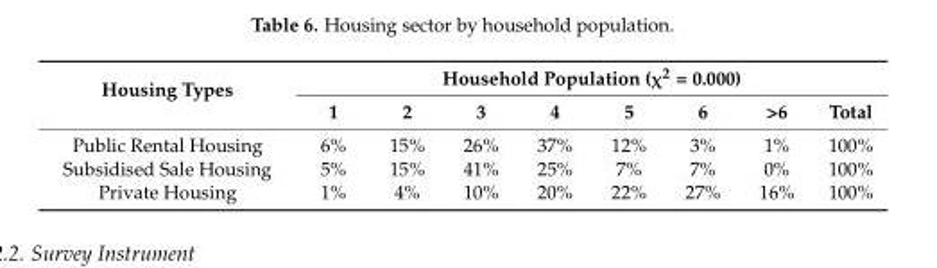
<table><thead><tr><td rowspan="2">Housing Types</td><td colspan="8">Household Population (χ<sup>2</sup> = 0.000)</td></tr><tr><td>1</td><td>2</td><td>3</td><td>4</td><td>5</td><td>6</td><td>&gt;6</td><td>Total</td></tr></thead><tbody><tr><td>Public Rental Housing</td><td>6%</td><td>15%</td><td>26%</td><td>37%</td><td>12%</td><td>3%</td><td>1%</td><td>100%</td></tr><tr><td>Subsidised Sale Housing</td><td>5%</td><td>15%</td><td>41%</td><td>25%</td><td>7%</td><td>7%</td><td>0%</td><td>100%</td></tr><tr><td>Private Housing</td><td>1%</td><td>4%</td><td>10%</td><td>20%</td><td>22%</td><td>27%</td><td>16%</td><td>100%</td></tr></tbody></table>